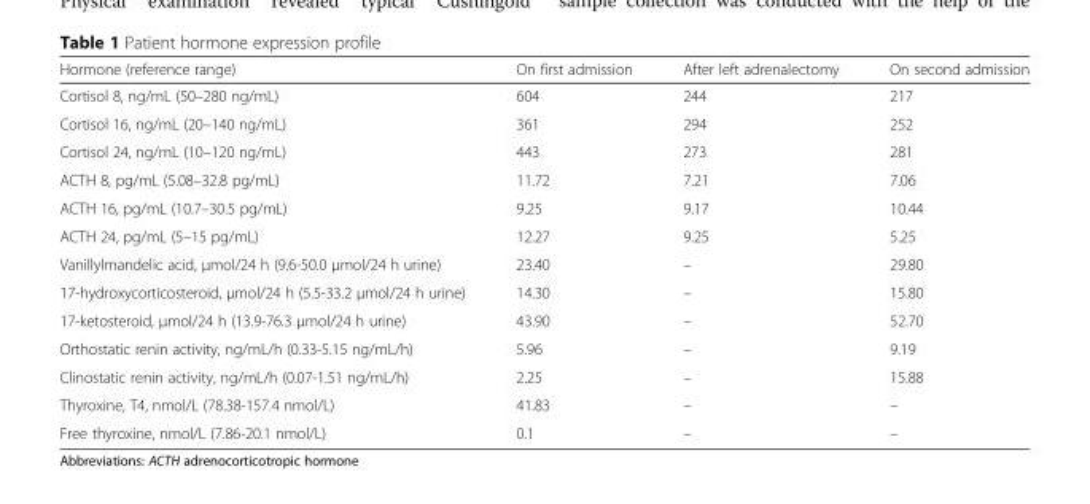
<table><thead><tr><td>Hormone (reference range)</td><td>On first admission</td><td>After left adrenalectomy</td><td>On second admission</td></tr></thead><tbody><tr><td>Cortisol 8, ng/mL (50–280 ng/mL)</td><td>604</td><td>244</td><td>217</td></tr><tr><td>Cortisol 16, ng/mL (20–140 ng/mL)</td><td>361</td><td>294</td><td>252</td></tr><tr><td>Cortisol 24, ng/mL (10–120 ng/mL)</td><td>443</td><td>273</td><td>281</td></tr><tr><td>ACTH 8, pg/mL (5.08–32.8 pg/mL)</td><td>11.72</td><td>7.21</td><td>7.06</td></tr><tr><td>ACTH 16, pg/mL (10.7–30.5 pg/mL)</td><td>9.25</td><td>9.17</td><td>10.44</td></tr><tr><td>ACTH 24, pg/mL (5–15 pg/mL)</td><td>12.27</td><td>9.25</td><td>5.25</td></tr><tr><td>Vanillylmandelic acid, μmol/24 h (9.6-50.0 μmol/24 h urine)</td><td>23.40</td><td>–</td><td>29.80</td></tr><tr><td>17-hydroxycorticosteroid, μmol/24 h (5.5-33.2 μmol/24 h urine)</td><td>14.30</td><td>–</td><td>15.80</td></tr><tr><td>17-ketosteroid, μmol/24 h (13.9-76.3 μmol/24 h urine)</td><td>43.90</td><td>–</td><td>52.70</td></tr><tr><td>Orthostatic renin activity, ng/mL/h (0.33-5.15 ng/mL/h)</td><td>5.96</td><td>–</td><td>9.19</td></tr><tr><td>Clinostatic renin activity, ng/mL/h (0.07-1.51 ng/mL/h)</td><td>2.25</td><td>–</td><td>15.88</td></tr><tr><td>Thyroxine, T4, nmol/L (78.38-157.4 nmol/L)</td><td>41.83</td><td>–</td><td>–</td></tr><tr><td>Free thyroxine, nmol/L (7.86-20.1 nmol/L)</td><td>0.1</td><td>–</td><td>–</td></tr></tbody></table>